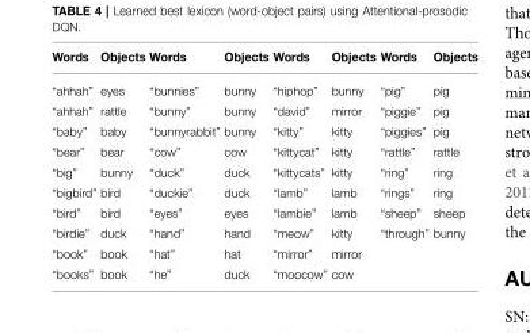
<table><thead><tr><td>Words</td><td>Objects</td><td>Words</td><td>Objects</td><td>Words</td><td>Objects</td><td>Words</td><td>Objects</td></tr></thead><tbody><tr><td>“ahhah”</td><td>eyes</td><td>“bunnies”</td><td>bunny</td><td>“hiphop”</td><td>bunny</td><td>“pig”</td><td>pig</td></tr><tr><td>“ahhah”</td><td>rattle</td><td>“bunny”</td><td>bunny</td><td>“david”</td><td>mirror</td><td>“piggie”</td><td>pig</td></tr><tr><td>“baby”</td><td>baby</td><td>“bunnyrabbit”</td><td>bunny</td><td>“kitty”</td><td>kitty</td><td>“piggies”</td><td>pig</td></tr><tr><td>“bear”</td><td>bear</td><td>“cow”</td><td>cow</td><td>“kittycat”</td><td>kitty</td><td>“rattle”</td><td>rattle</td></tr><tr><td>“big”</td><td>bunny</td><td>“duck”</td><td>duck</td><td>“kittycats”</td><td>kitty</td><td>“ring”</td><td>ring</td></tr><tr><td>“bigbird”</td><td>bird</td><td>“duckie”</td><td>duck</td><td>“lamb”</td><td>lamb</td><td>“rings”</td><td>ring</td></tr><tr><td>“bird”</td><td>bird</td><td>“eyes”</td><td>eyes</td><td>“lambie”</td><td>lamb</td><td>“sheep”</td><td>sheep</td></tr><tr><td>“birdie”</td><td>duck</td><td>“hand”</td><td>hand</td><td>“meow”</td><td>kitty</td><td>“through”</td><td>bunny</td></tr><tr><td>“book”</td><td>book</td><td>“hat”</td><td>hat</td><td>“mirror”</td><td>mirror</td><td></td><td></td></tr><tr><td>“books”</td><td>book</td><td>“he”</td><td>duck</td><td>“moocow”</td><td>cow</td><td></td><td></td></tr></tbody></table>